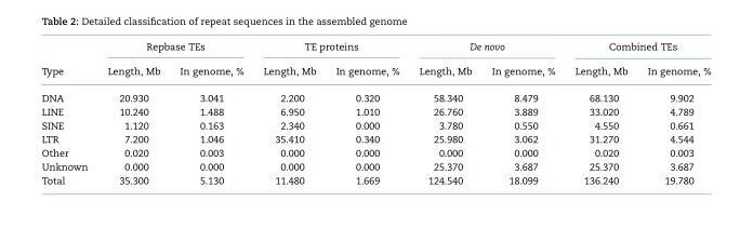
<table><thead><tr><td rowspan="2">Type</td><td colspan="2">Repbase TEs</td><td colspan="2">TE proteins</td><td colspan="2">De novo</td><td colspan="2">Combined TEs</td></tr><tr><td>Length, Mb</td><td>In genome, %</td><td>Length, Mb</td><td>In genome, %</td><td>Length, Mb</td><td>In genome, %</td><td>Length, Mb</td><td>In genome, %</td></tr></thead><tbody><tr><td>DNA</td><td>20.930</td><td>3.041</td><td>2.200</td><td>0.320</td><td>58.340</td><td>8.479</td><td>68.130</td><td>9.902</td></tr><tr><td>LINE</td><td>10.240</td><td>1.488</td><td>6.950</td><td>1.010</td><td>26.760</td><td>3.889</td><td>33.020</td><td>4.789</td></tr><tr><td>SINE</td><td>1.120</td><td>0.163</td><td>2.340</td><td>0.000</td><td>3.780</td><td>0.550</td><td>4.550</td><td>0.661</td></tr><tr><td>LTR</td><td>7.200</td><td>1.046</td><td>35.410</td><td>0.340</td><td>25.980</td><td>3.062</td><td>31.270</td><td>4.544</td></tr><tr><td>Other</td><td>0.020</td><td>0.003</td><td>0.000</td><td>0.000</td><td>0.000</td><td>0.000</td><td>0.020</td><td>0.003</td></tr><tr><td>Unknown</td><td>0.000</td><td>0.000</td><td>0.000</td><td>0.000</td><td>25.370</td><td>3.687</td><td>25.370</td><td>3.687</td></tr><tr><td>Total</td><td>35.300</td><td>5.130</td><td>11.480</td><td>1.669</td><td>124.540</td><td>18.099</td><td>136.240</td><td>19.780</td></tr></tbody></table>